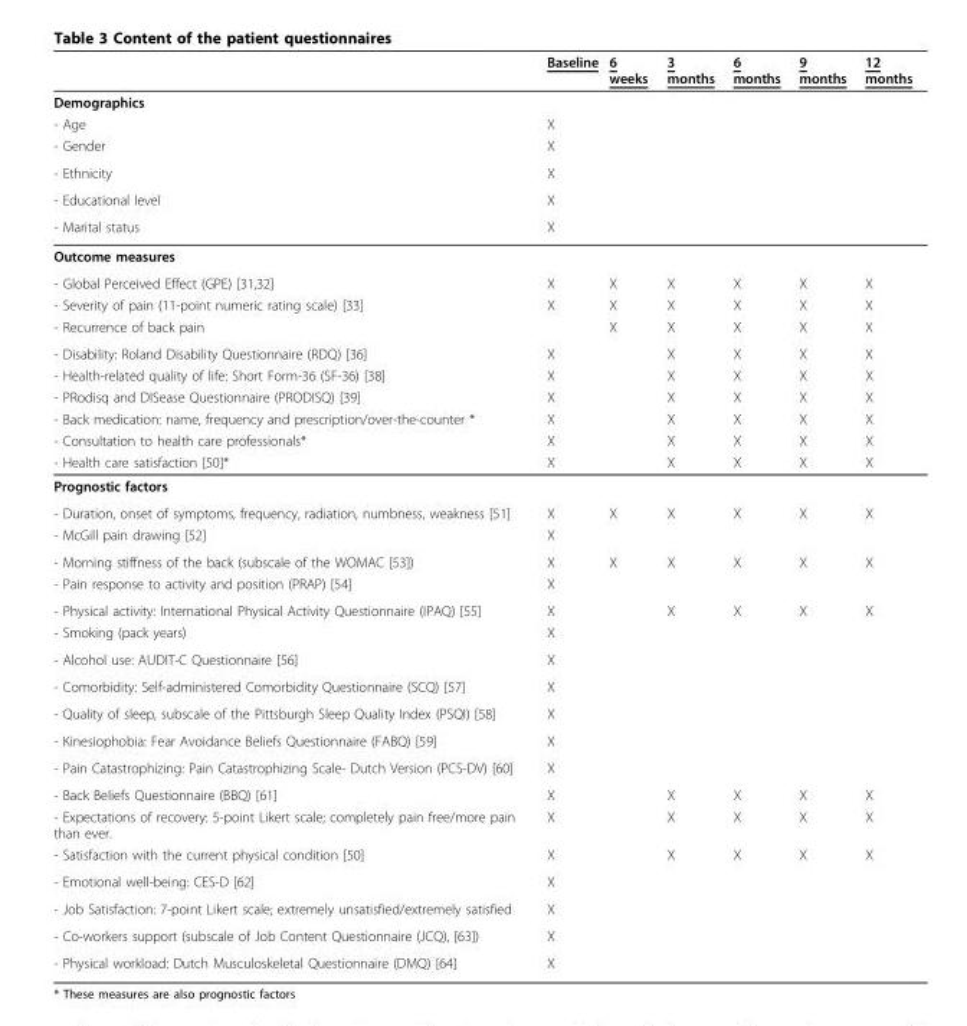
<table><thead><tr><td></td><td>Baseline</td><td>6 weeks</td><td>3 months</td><td>6 months</td><td>9 months</td><td>12 months</td></tr></thead><tbody><tr><td colspan="7">Demographics</td></tr><tr><td>- Age</td><td>X</td><td></td><td></td><td></td><td></td><td></td></tr><tr><td>- Gender</td><td>X</td><td></td><td></td><td></td><td></td><td></td></tr><tr><td>- Ethnicity</td><td>X</td><td></td><td></td><td></td><td></td><td></td></tr><tr><td>- Educational level</td><td>X</td><td></td><td></td><td></td><td></td><td></td></tr><tr><td>- Marital status</td><td>X</td><td></td><td></td><td></td><td></td><td></td></tr><tr><td colspan="7">Outcome measures</td></tr><tr><td>- Global Perceived Effect (GPE) [31,32]</td><td>X</td><td>X</td><td>X</td><td>X</td><td>X</td><td>X</td></tr><tr><td>- Severity of pain (11-point numeric rating scale) [33]</td><td>X</td><td>X</td><td>X</td><td>X</td><td>X</td><td>X</td></tr><tr><td>- Recurrence of back pain</td><td></td><td>X</td><td>X</td><td>X</td><td>X</td><td>X</td></tr><tr><td>- Disability: Roland Disability Questionnaire (RDQ) [36]</td><td>X</td><td></td><td>X</td><td>X</td><td>X</td><td>X</td></tr><tr><td>- Health-related quality of life: Short Form-36 (SF-36) [38]</td><td>X</td><td></td><td>X</td><td>X</td><td>X</td><td>X</td></tr><tr><td>- PRodisq and DISease Questionnaire (PRODISQ) [39]</td><td>X</td><td></td><td>X</td><td>X</td><td>X</td><td>X</td></tr><tr><td>- Back medication: name, frequency and prescription/over-the-counter *</td><td>X</td><td></td><td>X</td><td>X</td><td>X</td><td>X</td></tr><tr><td>- Consultation to health care professionals*</td><td>X</td><td></td><td>X</td><td>X</td><td>X</td><td>X</td></tr><tr><td>- Health care satisfaction [50]*</td><td>X</td><td></td><td>X</td><td>X</td><td>X</td><td>X</td></tr><tr><td colspan="7">Prognostic factors</td></tr><tr><td>- Duration, onset of symptoms, frequency, radiation, numbness, weakness [51]</td><td>X</td><td>X</td><td>X</td><td>X</td><td>X</td><td>X</td></tr><tr><td>- McGill pain drawing [52]</td><td>X</td><td></td><td></td><td></td><td></td><td></td></tr><tr><td>- Morning stiffness of the back (subscale of the WOMAC [53])</td><td>X</td><td>X</td><td>X</td><td>X</td><td>X</td><td>X</td></tr><tr><td>- Pain response to activity and position (PRAP) [54]</td><td>X</td><td></td><td></td><td></td><td></td><td></td></tr><tr><td>- Physical activity: International Physical Activity Questionnaire (IPAQ) [55]</td><td>X</td><td></td><td>X</td><td>X</td><td>X</td><td>X</td></tr><tr><td>- Smoking (pack years)</td><td>X</td><td></td><td></td><td></td><td></td><td></td></tr><tr><td>- Alcohol use: AUDIT-C Questionnaire [56]</td><td>X</td><td></td><td></td><td></td><td></td><td></td></tr><tr><td>- Comorbidity: Self-administered Comorbidity Questionnaire (SCQ) [57]</td><td>X</td><td></td><td></td><td></td><td></td><td></td></tr><tr><td>- Quality of sleep, subscale of the Pittsburgh Sleep Quality Index (PSQI) [58]</td><td>X</td><td></td><td></td><td></td><td></td><td></td></tr><tr><td>- Kinesiophobia: Fear Avoidance Beliefs Questionnaire (FABQ) [59]</td><td>X</td><td></td><td></td><td></td><td></td><td></td></tr><tr><td>- Pain Catastrophizing: Pain Catastrophizing Scale- Dutch Version (PCS-DV) [60]</td><td>X</td><td></td><td></td><td></td><td></td><td></td></tr><tr><td>- Back Beliefs Questionnaire (BBQ) [61]</td><td>X</td><td></td><td>X</td><td>X</td><td>X</td><td>X</td></tr><tr><td>- Expectations of recovery: 5-point Likert scale; completely pain free/more pain than ever.</td><td>X</td><td></td><td>X</td><td>X</td><td>X</td><td>X</td></tr><tr><td>- Satisfaction with the current physical condition [50]</td><td>X</td><td></td><td>X</td><td>X</td><td>X</td><td>X</td></tr><tr><td>- Emotional well-being: CES-D [62]</td><td>X</td><td></td><td></td><td></td><td></td><td></td></tr><tr><td>- Job Satisfaction: 7-point Likert scale; extremely unsatisfied/extremely satisfied</td><td>X</td><td></td><td></td><td></td><td></td><td></td></tr><tr><td>- Co-workers support (subscale of Job Content Questionnaire (JCQ), [63])</td><td>X</td><td></td><td></td><td></td><td></td><td></td></tr><tr><td>- Physical workload: Dutch Musculoskeletal Questionnaire (DMQ) [64]</td><td>X</td><td></td><td></td><td></td><td></td><td></td></tr></tbody></table>